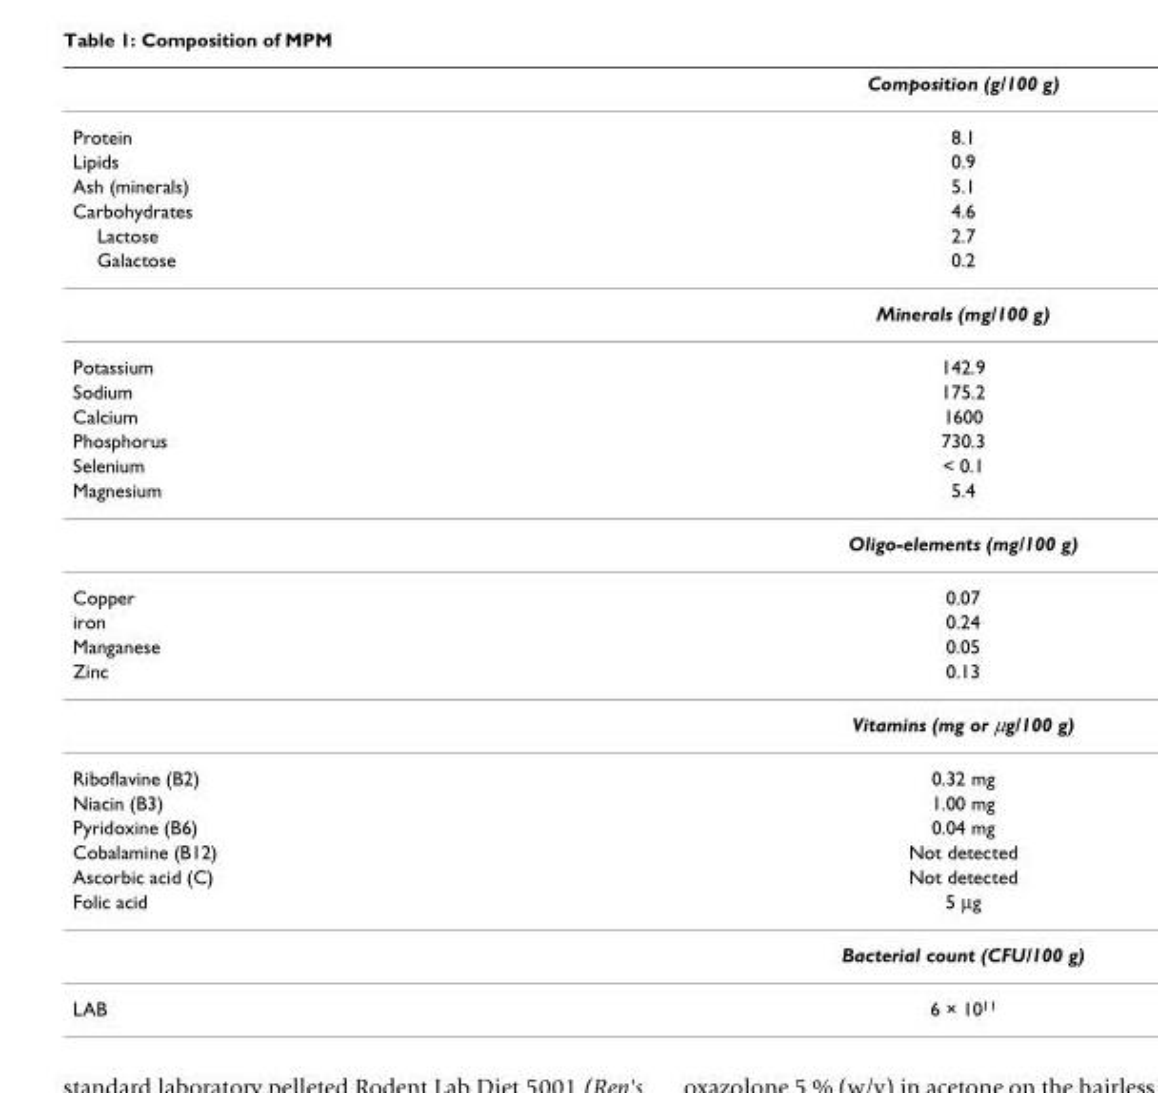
<table><thead><tr><td></td><td>Composition (g/100 g)</td></tr></thead><tbody><tr><td>Protein</td><td>8.1</td></tr><tr><td>Lipids</td><td>0.9</td></tr><tr><td>Ash (minerals)</td><td>5.1</td></tr><tr><td>Carbohydrates</td><td>4.6</td></tr><tr><td>Lactose</td><td>2.7</td></tr><tr><td rowspan="2">Galactose</td><td>0.2</td></tr><tr><td>Minerals (mg/100 g)</td></tr><tr><td>Potassium</td><td>142.9</td></tr><tr><td>Sodium</td><td>175.2</td></tr><tr><td>Calcium</td><td>1600</td></tr><tr><td>Phosphorus</td><td>730.3</td></tr><tr><td>Selenium</td><td>&lt; 0.1</td></tr><tr><td rowspan="2">Magnesium</td><td>5.4</td></tr><tr><td>Oligo-elements (mg/100 g)</td></tr><tr><td>Copper</td><td>0.07</td></tr><tr><td>iron</td><td>0.24</td></tr><tr><td>Manganese</td><td>0.05</td></tr><tr><td rowspan="2">Zinc</td><td>0.13</td></tr><tr><td>Vitamins (mg or μg/100 g)</td></tr><tr><td>Riboflavine (B2)</td><td>0.32 mg</td></tr><tr><td>Niacin (B3)</td><td>1.00 mg</td></tr><tr><td>Pyridoxine (B6)</td><td>0.04 mg</td></tr><tr><td>Cobalamine (B12)</td><td>Not detected</td></tr><tr><td>Ascorbic acid (C)</td><td>Not detected</td></tr><tr><td rowspan="2">Folic acid</td><td>5 μg</td></tr><tr><td>Bacterial count (CFU/100 g)</td></tr><tr><td>LAB</td><td>6 × 10<sup>11</sup></td></tr></tbody></table>